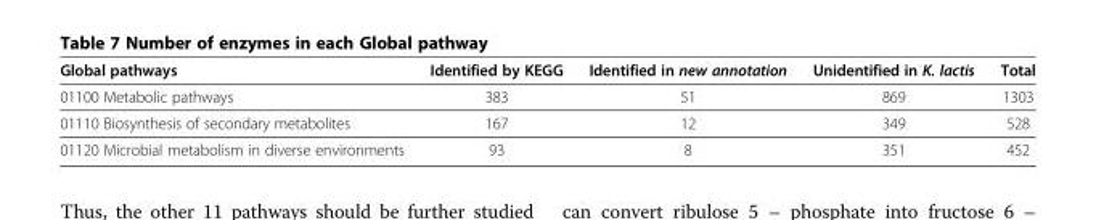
<table><thead><tr><td>Global pathways</td><td>Identified by KEGG</td><td>Identified in new annotation</td><td>Unidentified in K. lactis</td><td>Total</td></tr></thead><tbody><tr><td>01100 Metabolic pathways</td><td>383</td><td>51</td><td>869</td><td>1303</td></tr><tr><td>01110 Biosynthesis of secondary metabolites</td><td>167</td><td>12</td><td>349</td><td>528</td></tr><tr><td>01120 Microbial metabolism in diverse environments</td><td>93</td><td>8</td><td>351</td><td>452</td></tr></tbody></table>